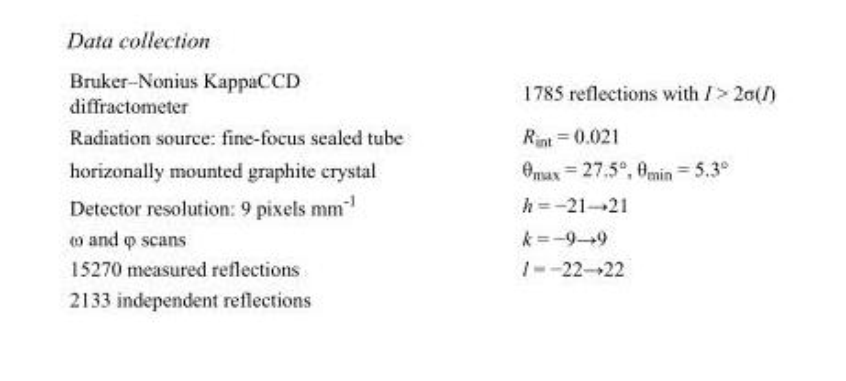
<table><tbody><tr><td>Bruker–Nonius KappaCCD diffractometer</td><td>1785 reflections with I &gt; 2σ(I)</td></tr><tr><td>Radiation source: fine-focus sealed tube</td><td>R<sub>int</sub> = 0.021</td></tr><tr><td>horizonally mounted graphite crystal</td><td>θ<sub>max</sub> = 27.5°, θ<sub>min</sub> = 5.3°</td></tr><tr><td>Detector resolution: 9 pixels mm<sup>-1</sup></td><td>h = −21→21</td></tr><tr><td>ω and φ scans</td><td>k = −9→9</td></tr><tr><td>15270 measured reflections</td><td>l = −22→22</td></tr><tr><td>2133 independent reflections</td><td></td></tr></tbody></table>